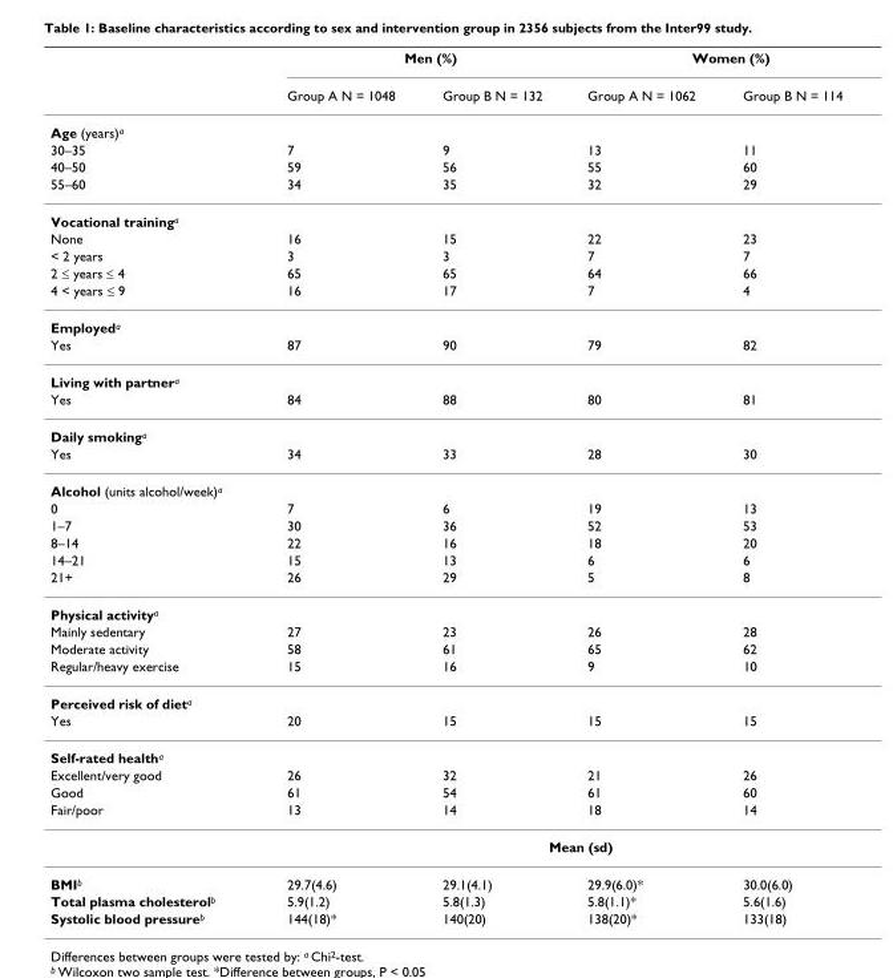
<table><thead><tr><td rowspan="2"></td><td colspan="2">Men (%)</td><td colspan="2">Women (%)</td></tr><tr><td>Group A N = 1048</td><td>Group B N = 132</td><td>Group A N = 1062</td><td>Group B N = 114</td></tr></thead><tbody><tr><td colspan="5">Age (years)<sup>a</sup></td></tr><tr><td>30–35</td><td>7</td><td>9</td><td>13</td><td>11</td></tr><tr><td>40–50</td><td>59</td><td>56</td><td>55</td><td>60</td></tr><tr><td>55–60</td><td>34</td><td>35</td><td>32</td><td>29</td></tr><tr><td colspan="5">Vocational training<sup>a</sup></td></tr><tr><td>None</td><td>16</td><td>15</td><td>22</td><td>23</td></tr><tr><td>&lt; 2 years</td><td>3</td><td>3</td><td>7</td><td>7</td></tr><tr><td>2 ≤ years ≤ 4</td><td>65</td><td>65</td><td>64</td><td>66</td></tr><tr><td>4 &lt; years ≤ 9</td><td>16</td><td>17</td><td>7</td><td>4</td></tr><tr><td colspan="5">Employed<sup>a</sup></td></tr><tr><td>Yes</td><td>87</td><td>90</td><td>79</td><td>82</td></tr><tr><td colspan="5">Living with partner<sup>a</sup></td></tr><tr><td>Yes</td><td>84</td><td>88</td><td>80</td><td>81</td></tr><tr><td colspan="5">Daily smoking<sup>a</sup></td></tr><tr><td>Yes</td><td>34</td><td>33</td><td>28</td><td>30</td></tr><tr><td colspan="5">Alcohol (units alcohol/week)<sup>a</sup></td></tr><tr><td>0</td><td>7</td><td>6</td><td>19</td><td>13</td></tr><tr><td>1–7</td><td>30</td><td>36</td><td>52</td><td>53</td></tr><tr><td>8–14</td><td>22</td><td>16</td><td>18</td><td>20</td></tr><tr><td>14–21</td><td>15</td><td>13</td><td>6</td><td>6</td></tr><tr><td>21+</td><td>26</td><td>29</td><td>5</td><td>8</td></tr><tr><td colspan="5">Physical activity<sup>a</sup></td></tr><tr><td>Mainly sedentary</td><td>27</td><td>23</td><td>26</td><td>28</td></tr><tr><td>Moderate activity</td><td>58</td><td>61</td><td>65</td><td>62</td></tr><tr><td>Regular/heavy exercise</td><td>15</td><td>16</td><td>9</td><td>10</td></tr><tr><td colspan="5">Perceived risk of diet<sup>a</sup></td></tr><tr><td>Yes</td><td>20</td><td>15</td><td>15</td><td>15</td></tr><tr><td colspan="5">Self-rated health<sup>a</sup></td></tr><tr><td>Excellent/very good</td><td>26</td><td>32</td><td>21</td><td>26</td></tr><tr><td>Good</td><td>61</td><td>54</td><td>61</td><td>60</td></tr><tr><td rowspan="2">Fair/poor</td><td>13</td><td>14</td><td>18</td><td>14</td></tr><tr><td colspan="4">Mean (sd)</td></tr><tr><td>BMI<sup>b</sup></td><td>29.7(4.6)</td><td>29.1(4.1)</td><td>29.9(6.0)*</td><td>30.0(6.0)</td></tr><tr><td>Total plasma cholesterol<sup>b</sup></td><td>5.9(1.2)</td><td>5.8(1.3)</td><td>5.8(1.1)*</td><td>5.6(1.6)</td></tr><tr><td>Systolic blood pressure<sup>b</sup></td><td>144(18)*</td><td>140(20)</td><td>138(20)*</td><td>133(18)</td></tr></tbody></table>